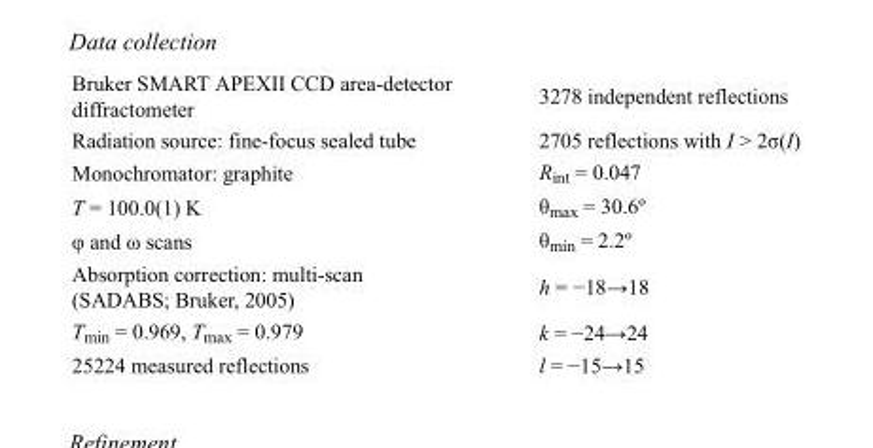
<table><tbody><tr><td>Bruker SMART APEXII CCD area-detector diffractometer</td><td>3278 independent reflections</td></tr><tr><td>Radiation source: fine-focus sealed tube</td><td>2705 reflections with I &gt; 2σ(I)</td></tr><tr><td>Monochromator: graphite</td><td>R<sub>int</sub> = 0.047</td></tr><tr><td>T = 100.0(1) K</td><td>θ<sub>max</sub> = 30.6º</td></tr><tr><td>φ and ω scans</td><td>θ<sub>min</sub> = 2.2º</td></tr><tr><td>Absorption correction: multi-scan (SADABS; Bruker, 2005)</td><td>h = −18→18</td></tr><tr><td>T<sub>min</sub> = 0.969, T<sub>max</sub> = 0.979</td><td>k = −24→24</td></tr><tr><td>25224 measured reflections</td><td>l = −15→15</td></tr></tbody></table>